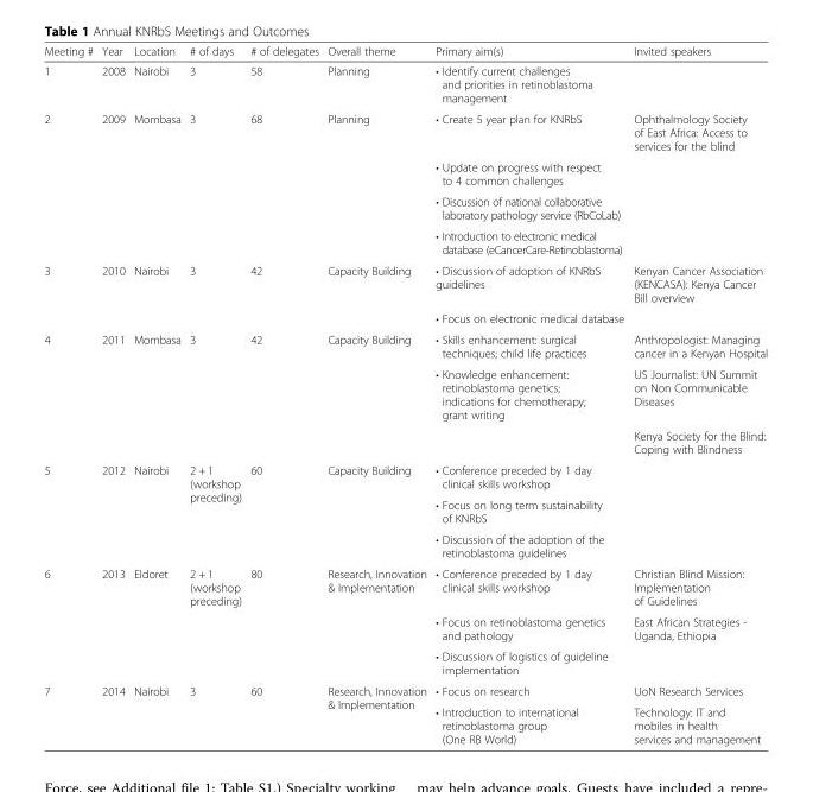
<table><thead><tr><td>Meeting #</td><td>Year</td><td>Location</td><td># of days</td><td># of delegates</td><td>Overall theme</td><td>Primary aim(s)</td><td>Invited speakers</td></tr></thead><tbody><tr><td>1</td><td>2008</td><td>Nairobi</td><td>3</td><td>58</td><td>Planning</td><td>• Identify current challenges and priorities in retinoblastoma management</td><td></td></tr><tr><td rowspan="4">2</td><td rowspan="4">2009</td><td rowspan="4">Mombasa</td><td rowspan="4">3</td><td rowspan="4">68</td><td rowspan="4">Planning</td><td>• Create 5 year plan for KNRbS</td><td>Ophthalmology Society of East Africa: Access to services for the blind</td></tr><tr><td>• Update on progress with respect to 4 common challenges</td><td></td></tr><tr><td>• Discussion of national collaborative laboratory pathology service (RbCoLab)</td><td></td></tr><tr><td>• Introduction to electronic medical database (eCancerCare-Retinoblastoma)</td><td></td></tr><tr><td rowspan="2">3</td><td rowspan="2">2010</td><td rowspan="2">Nairobi</td><td rowspan="2">3</td><td rowspan="2">42</td><td rowspan="2">Capacity Building</td><td>• Discussion of adoption of KNRbS guidelines</td><td>Kenyan Cancer Association (KENCASA): Kenya Cancer Bill overview</td></tr><tr><td>• Focus on electronic medical database</td><td></td></tr><tr><td rowspan="3">4</td><td rowspan="3">2011</td><td rowspan="3">Mombasa</td><td rowspan="3">3</td><td rowspan="3">42</td><td rowspan="3">Capacity Building</td><td>• Skills enhancement: surgical techniques; child life practices</td><td>Anthropologist: Managing cancer in a Kenyan Hospital</td></tr><tr><td>• Knowledge enhancement: retinoblastoma genetics; indications for chemotherapy; grant writing</td><td>US Journalist: UN Summit on Non Communicable Diseases</td></tr><tr><td></td><td>Kenya Society for the Blind: Coping with Blindness</td></tr><tr><td rowspan="3">5</td><td rowspan="3">2012</td><td rowspan="3">Nairobi</td><td rowspan="3">2 + 1 (workshop preceding)</td><td rowspan="3">60</td><td rowspan="3">Capacity Building</td><td>• Conference preceded by 1 day clinical skills workshop</td><td rowspan="3"></td></tr><tr><td>• Focus on long term sustainability of KNRbS</td></tr><tr><td>• Discussion of the adoption of the retinoblastoma guidelines</td></tr><tr><td rowspan="3">6</td><td rowspan="3">2013</td><td rowspan="3">Eldoret</td><td rowspan="3">2 + 1 (workshop preceding)</td><td rowspan="3">80</td><td rowspan="3">Research, Innovation &amp; Implementation</td><td>• Conference preceded by 1 day clinical skills workshop</td><td>Christian Blind Mission: Implementation of Guidelines</td></tr><tr><td>• Focus on retinoblastoma genetics and pathology</td><td>East African Strategies - Uganda, Ethiopia</td></tr><tr><td>• Discussion of logistics of guideline implementation</td><td></td></tr><tr><td rowspan="2">7</td><td rowspan="2">2014</td><td rowspan="2">Nairobi</td><td rowspan="2">3</td><td rowspan="2">60</td><td rowspan="2">Research, Innovation &amp; Implementation</td><td>• Focus on research</td><td>UoN Research Services</td></tr><tr><td>• Introduction to international retinoblastoma group (One RB World)</td><td>Technology: IT and mobiles in health services and management</td></tr></tbody></table>